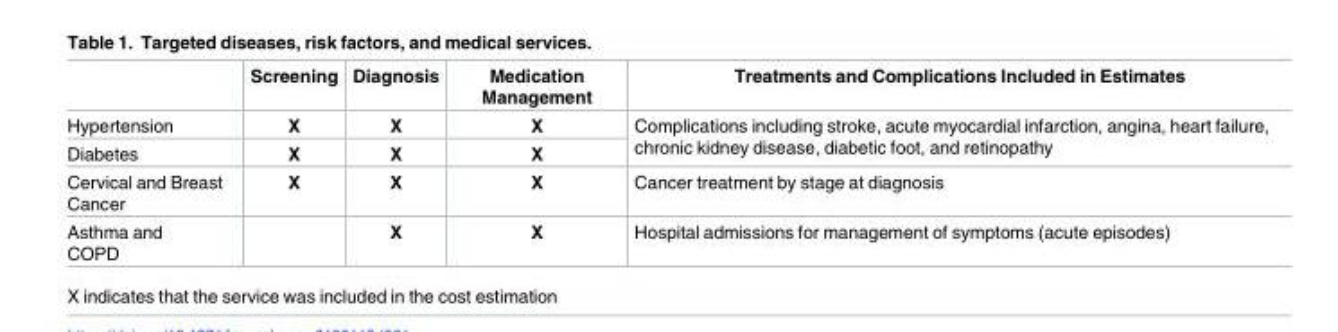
<table><thead><tr><td></td><td>Screening</td><td>Diagnosis</td><td>Medication Management</td><td>Treatments and Complications Included in Estimates</td></tr></thead><tbody><tr><td>Hypertension</td><td>X</td><td>X</td><td>X</td><td rowspan="2">Complications including stroke, acute myocardial infarction, angina, heart failure, chronic kidney disease, diabetic foot, and retinopathy</td></tr><tr><td>Diabetes</td><td>X</td><td>X</td><td>X</td></tr><tr><td>Cervical and Breast Cancer</td><td>X</td><td>X</td><td>X</td><td>Cancer treatment by stage at diagnosis</td></tr><tr><td>Asthma and COPD</td><td></td><td>X</td><td>X</td><td>Hospital admissions for management of symptoms (acute episodes)</td></tr></tbody></table>